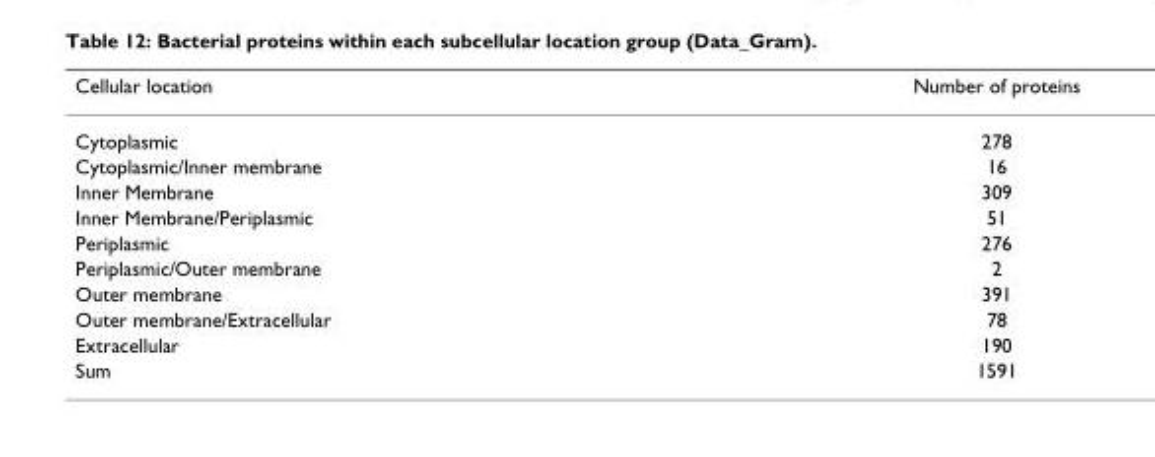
<table><thead><tr><td>Cellular location</td><td>Number of proteins</td></tr></thead><tbody><tr><td>Cytoplasmic</td><td>278</td></tr><tr><td>Cytoplasmic/Inner membrane</td><td>16</td></tr><tr><td>Inner Membrane</td><td>309</td></tr><tr><td>Inner Membrane/Periplasmic</td><td>51</td></tr><tr><td>Periplasmic</td><td>276</td></tr><tr><td>Periplasmic/Outer membrane</td><td>2</td></tr><tr><td>Outer membrane</td><td>391</td></tr><tr><td>Outer membrane/Extracellular</td><td>78</td></tr><tr><td>Extracellular</td><td>190</td></tr><tr><td>Sum</td><td>1591</td></tr></tbody></table>